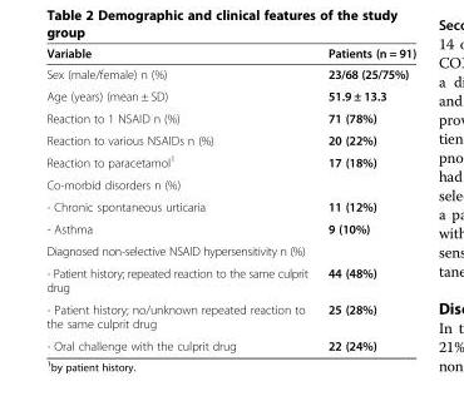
<table><thead><tr><td>Variable</td><td>Patients (n = 91)</td></tr></thead><tbody><tr><td>Sex (male/female) n (%)</td><td>23/68 (25/75%)</td></tr><tr><td>Age (years) (mean ± SD)</td><td>51.9 ± 13.3</td></tr><tr><td>Reaction to 1 NSAID n (%)</td><td>71 (78%)</td></tr><tr><td>Reaction to various NSAIDs n (%)</td><td>20 (22%)</td></tr><tr><td>Reaction to paracetamol<sup>1</sup></td><td>17 (18%)</td></tr><tr><td colspan="2">Co-morbid disorders n (%)</td></tr><tr><td>- Chronic spontaneous urticaria</td><td>11 (12%)</td></tr><tr><td>- Asthma</td><td>9 (10%)</td></tr><tr><td colspan="2">Diagnosed non-selective NSAID hypersensitivity n (%)</td></tr><tr><td>- Patient history; repeated reaction to the same culprit drug</td><td>44 (48%)</td></tr><tr><td>- Patient history; no/unknown repeated reaction to the same culprit drug</td><td>25 (28%)</td></tr><tr><td>- Oral challenge with the culprit drug</td><td>22 (24%)</td></tr></tbody></table>